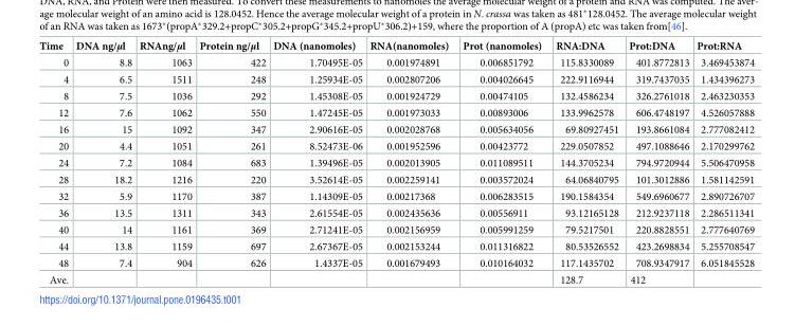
<table><thead><tr><td>Time</td><td>DNA ng/μl</td><td>RNAng/μl</td><td>Protein ng/μl</td><td>DNA (nanomoles)</td><td>RNA(nanomoles)</td><td>Prot (nanomoles)</td><td>RNA:DNA</td><td>Prot:DNA</td><td>Prot:RNA</td></tr></thead><tbody><tr><td>0</td><td>8.8</td><td>1063</td><td>422</td><td>1.70495E-05</td><td>0.001974891</td><td>0.006851792</td><td>115.8330089</td><td>401.8772813</td><td>3.469453874</td></tr><tr><td>4</td><td>6.5</td><td>1511</td><td>248</td><td>1.25934E-05</td><td>0.002807206</td><td>0.004026645</td><td>222.9116944</td><td>319.7437035</td><td>1.434396273</td></tr><tr><td>8</td><td>7.5</td><td>1036</td><td>292</td><td>1.45308E-05</td><td>0.001924729</td><td>0.00474105</td><td>132.4586234</td><td>326.2761018</td><td>2.463230353</td></tr><tr><td>12</td><td>7.6</td><td>1062</td><td>550</td><td>1.47245E-05</td><td>0.001973033</td><td>0.00893006</td><td>133.9962578</td><td>606.4748197</td><td>4.526057888</td></tr><tr><td>16</td><td>15</td><td>1092</td><td>347</td><td>2.90616E-05</td><td>0.002028768</td><td>0.005634056</td><td>69.80927451</td><td>193.8661084</td><td>2.777082412</td></tr><tr><td>20</td><td>4.4</td><td>1051</td><td>261</td><td>8.52473E-06</td><td>0.001952596</td><td>0.00423772</td><td>229.0507852</td><td>497.1088646</td><td>2.170299762</td></tr><tr><td>24</td><td>7.2</td><td>1084</td><td>683</td><td>1.39496E-05</td><td>0.002013905</td><td>0.011089511</td><td>144.3705234</td><td>794.9720944</td><td>5.506470958</td></tr><tr><td>28</td><td>18.2</td><td>1216</td><td>220</td><td>3.52614E-05</td><td>0.002259141</td><td>0.003572024</td><td>64.06840795</td><td>101.3012886</td><td>1.581142591</td></tr><tr><td>32</td><td>5.9</td><td>1170</td><td>387</td><td>1.14309E-05</td><td>0.00217368</td><td>0.006283515</td><td>190.1584354</td><td>549.6960677</td><td>2.890726707</td></tr><tr><td>36</td><td>13.5</td><td>1311</td><td>343</td><td>2.61554E-05</td><td>0.002435636</td><td>0.00556911</td><td>93.12165128</td><td>212.9237118</td><td>2.286511341</td></tr><tr><td>40</td><td>14</td><td>1161</td><td>369</td><td>2.71241E-05</td><td>0.002156959</td><td>0.005991259</td><td>79.5217501</td><td>220.8828551</td><td>2.777640769</td></tr><tr><td>44</td><td>13.8</td><td>1159</td><td>697</td><td>2.67367E-05</td><td>0.002153244</td><td>0.011316822</td><td>80.53526552</td><td>423.2698834</td><td>5.255708547</td></tr><tr><td>48</td><td>7.4</td><td>904</td><td>626</td><td>1.4337E-05</td><td>0.001679493</td><td>0.010164032</td><td>117.1435702</td><td>708.9347917</td><td>6.051845528</td></tr><tr><td>Ave.</td><td></td><td></td><td></td><td></td><td></td><td></td><td>128.7</td><td>412</td><td></td></tr></tbody></table>